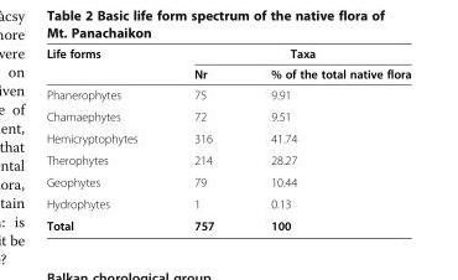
<table><thead><tr><td rowspan="2">Life forms</td><td colspan="2">Taxa</td></tr><tr><td>Nr</td><td>% of the total native flora</td></tr></thead><tbody><tr><td>Phanerophytes</td><td>75</td><td>9.91</td></tr><tr><td>Chamaephytes</td><td>72</td><td>9.51</td></tr><tr><td>Hemicryptophytes</td><td>316</td><td>41.74</td></tr><tr><td>Therophytes</td><td>214</td><td>28.27</td></tr><tr><td>Geophytes</td><td>79</td><td>10.44</td></tr><tr><td>Hydrophytes</td><td>1</td><td>0.13</td></tr><tr><td>Total</td><td>757</td><td>100</td></tr></tbody></table>